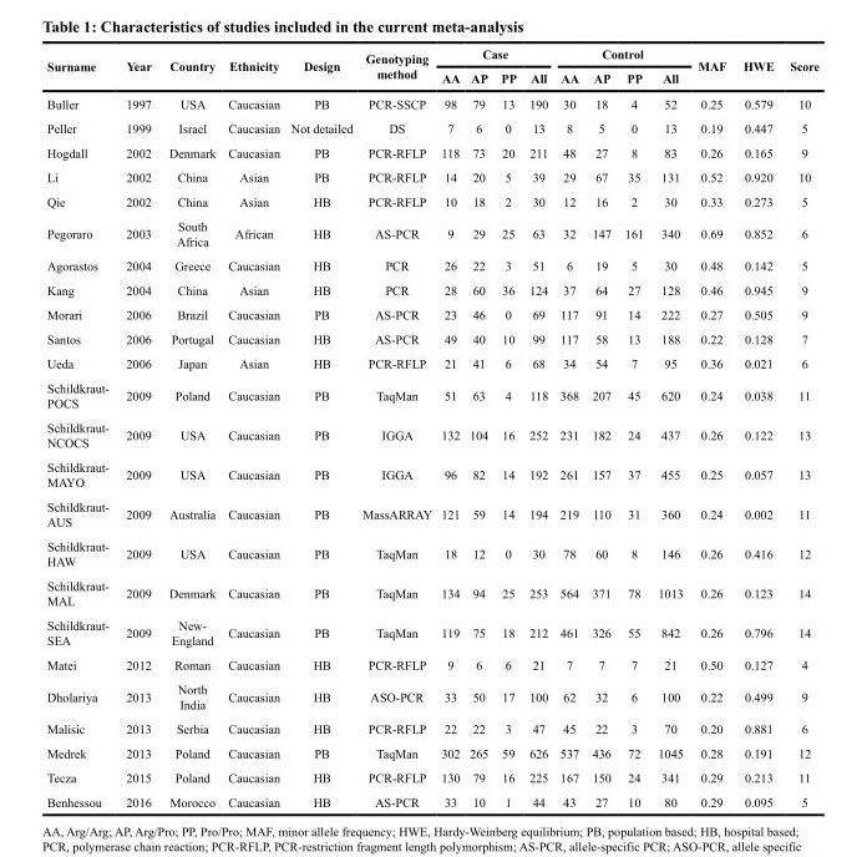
<table><thead><tr><td rowspan="2">Surname</td><td rowspan="2">Year</td><td rowspan="2">Country</td><td rowspan="2">Ethnicity</td><td rowspan="2">Design</td><td rowspan="2">Genotyping method</td><td colspan="4">Case</td><td colspan="4">Control</td><td rowspan="2">MAF</td><td rowspan="2">HWE</td><td rowspan="2">Score</td></tr><tr><td>AA</td><td>AP</td><td>PP</td><td>All</td><td>AA</td><td>AP</td><td>PP</td><td>All</td></tr></thead><tbody><tr><td>Buller</td><td>1997</td><td>USA</td><td>Caucasian</td><td>PB</td><td>PCR-SSCP</td><td>98</td><td>79</td><td>13</td><td>190</td><td>30</td><td>18</td><td>4</td><td>52</td><td>0.25</td><td>0.579</td><td>10</td></tr><tr><td>Peller</td><td>1999</td><td>Israel</td><td>Caucasian</td><td>Not detailed</td><td>DS</td><td>7</td><td>6</td><td>0</td><td>13</td><td>8</td><td>5</td><td>0</td><td>13</td><td>0.19</td><td>0.447</td><td>5</td></tr><tr><td>Hogdall</td><td>2002</td><td>Denmark</td><td>Caucasian</td><td>PB</td><td>PCR-RFLP</td><td>118</td><td>73</td><td>20</td><td>211</td><td>48</td><td>27</td><td>8</td><td>83</td><td>0.26</td><td>0.165</td><td>9</td></tr><tr><td>Li</td><td>2002</td><td>China</td><td>Asian</td><td>PB</td><td>PCR-RFLP</td><td>14</td><td>20</td><td>5</td><td>39</td><td>29</td><td>67</td><td>35</td><td>131</td><td>0.52</td><td>0.920</td><td>10</td></tr><tr><td>Qie</td><td>2002</td><td>China</td><td>Asian</td><td>HB</td><td>PCR-RFLP</td><td>10</td><td>18</td><td>2</td><td>30</td><td>12</td><td>16</td><td>2</td><td>30</td><td>0.33</td><td>0.273</td><td>5</td></tr><tr><td>Pegoraro</td><td>2003</td><td>South Africa</td><td>African</td><td>HB</td><td>AS-PCR</td><td>9</td><td>29</td><td>25</td><td>63</td><td>32</td><td>147</td><td>161</td><td>340</td><td>0.69</td><td>0.852</td><td>6</td></tr><tr><td>Agorastos</td><td>2004</td><td>Greece</td><td>Caucasian</td><td>HB</td><td>PCR</td><td>26</td><td>22</td><td>3</td><td>51</td><td>6</td><td>19</td><td>5</td><td>30</td><td>0.48</td><td>0.142</td><td>5</td></tr><tr><td>Kang</td><td>2004</td><td>China</td><td>Asian</td><td>HB</td><td>PCR</td><td>28</td><td>60</td><td>36</td><td>124</td><td>37</td><td>64</td><td>27</td><td>128</td><td>0.46</td><td>0.945</td><td>9</td></tr><tr><td>Morari</td><td>2006</td><td>Brazil</td><td>Caucasian</td><td>PB</td><td>AS-PCR</td><td>23</td><td>46</td><td>0</td><td>69</td><td>117</td><td>91</td><td>14</td><td>222</td><td>0.27</td><td>0.505</td><td>9</td></tr><tr><td>Santos</td><td>2006</td><td>Portugal</td><td>Caucasian</td><td>HB</td><td>AS-PCR</td><td>49</td><td>40</td><td>10</td><td>99</td><td>117</td><td>58</td><td>13</td><td>188</td><td>0.22</td><td>0.128</td><td>7</td></tr><tr><td>Ueda</td><td>2006</td><td>Japan</td><td>Asian</td><td>HB</td><td>PCR-RFLP</td><td>21</td><td>41</td><td>6</td><td>68</td><td>34</td><td>54</td><td>7</td><td>95</td><td>0.36</td><td>0.021</td><td>6</td></tr><tr><td>Schildkraut- POCS</td><td>2009</td><td>Poland</td><td>Caucasian</td><td>PB</td><td>TaqMan</td><td>51</td><td>63</td><td>4</td><td>118</td><td>368</td><td>207</td><td>45</td><td>620</td><td>0.24</td><td>0.038</td><td>11</td></tr><tr><td>Schildkraut- NCOCS</td><td>2009</td><td>USA</td><td>Caucasian</td><td>PB</td><td>IGGA</td><td>132</td><td>104</td><td>16</td><td>252</td><td>231</td><td>182</td><td>24</td><td>437</td><td>0.26</td><td>0.122</td><td>13</td></tr><tr><td>Schildkraut- MAYO</td><td>2009</td><td>USA</td><td>Caucasian</td><td>PB</td><td>IGGA</td><td>96</td><td>82</td><td>14</td><td>192</td><td>261</td><td>157</td><td>37</td><td>455</td><td>0.25</td><td>0.057</td><td>13</td></tr><tr><td>Schildkraut- AUS</td><td>2009</td><td>Australia</td><td>Caucasian</td><td>PB</td><td>MassARRAY</td><td>121</td><td>59</td><td>14</td><td>194</td><td>219</td><td>110</td><td>31</td><td>360</td><td>0.24</td><td>0.002</td><td>11</td></tr><tr><td>Schildkraut- HAW</td><td>2009</td><td>USA</td><td>Caucasian</td><td>PB</td><td>TaqMan</td><td>18</td><td>12</td><td>0</td><td>30</td><td>78</td><td>60</td><td>8</td><td>146</td><td>0.26</td><td>0.416</td><td>12</td></tr><tr><td>Schildkraut- MAL</td><td>2009</td><td>Denmark</td><td>Caucasian</td><td>PB</td><td>TaqMan</td><td>134</td><td>94</td><td>25</td><td>253</td><td>564</td><td>371</td><td>78</td><td>1013</td><td>0.26</td><td>0.123</td><td>14</td></tr><tr><td>Schildkraut- SEA</td><td>2009</td><td>New- England</td><td>Caucasian</td><td>PB</td><td>TaqMan</td><td>119</td><td>75</td><td>18</td><td>212</td><td>461</td><td>326</td><td>55</td><td>842</td><td>0.26</td><td>0.796</td><td>14</td></tr><tr><td>Matei</td><td>2012</td><td>Roman</td><td>Caucasian</td><td>HB</td><td>PCR-RFLP</td><td>9</td><td>6</td><td>6</td><td>21</td><td>7</td><td>7</td><td>7</td><td>21</td><td>0.50</td><td>0.127</td><td>4</td></tr><tr><td>Dholariya</td><td>2013</td><td>North India</td><td>Caucasian</td><td>HB</td><td>ASO-PCR</td><td>33</td><td>50</td><td>17</td><td>100</td><td>62</td><td>32</td><td>6</td><td>100</td><td>0.22</td><td>0.499</td><td>9</td></tr><tr><td>Malisic</td><td>2013</td><td>Serbia</td><td>Caucasian</td><td>HB</td><td>PCR-RFLP</td><td>22</td><td>22</td><td>3</td><td>47</td><td>45</td><td>22</td><td>3</td><td>70</td><td>0.20</td><td>0.881</td><td>6</td></tr><tr><td>Medrek</td><td>2013</td><td>Poland</td><td>Caucasian</td><td>PB</td><td>TaqMan</td><td>302</td><td>265</td><td>59</td><td>626</td><td>537</td><td>436</td><td>72</td><td>1045</td><td>0.28</td><td>0.191</td><td>12</td></tr><tr><td>Tecza</td><td>2015</td><td>Poland</td><td>Caucasian</td><td>HB</td><td>PCR-RFLP</td><td>130</td><td>79</td><td>16</td><td>225</td><td>167</td><td>150</td><td>24</td><td>341</td><td>0.29</td><td>0.213</td><td>11</td></tr><tr><td>Benhessou</td><td>2016</td><td>Morocco</td><td>Caucasian</td><td>HB</td><td>AS-PCR</td><td>33</td><td>10</td><td>1</td><td>44</td><td>43</td><td>27</td><td>10</td><td>80</td><td>0.29</td><td>0.095</td><td>5</td></tr></tbody></table>